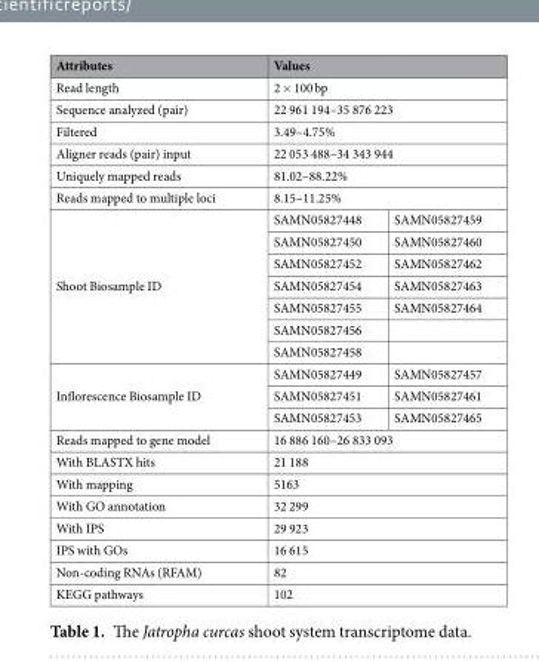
<table><thead><tr><td>Attributes</td><td colspan="2">Values</td></tr></thead><tbody><tr><td>Read length</td><td colspan="2">2 × 100 bp</td></tr><tr><td>Sequence analyzed (pair)</td><td colspan="2">22 961 194–35 876 223</td></tr><tr><td>Filtered</td><td colspan="2">3.49–4.75%</td></tr><tr><td>Aligner reads (pair) input</td><td colspan="2">22 053 488–34 343 944</td></tr><tr><td>Uniquely mapped reads</td><td colspan="2">81.02–88.22%</td></tr><tr><td>Reads mapped to multiple loci</td><td colspan="2">8.15–11.25%</td></tr><tr><td rowspan="7">Shoot Biosample ID</td><td>SAMN05827448</td><td>SAMN05827459</td></tr><tr><td>SAMN05827450</td><td>SAMN05827460</td></tr><tr><td>SAMN05827452</td><td>SAMN05827462</td></tr><tr><td>SAMN05827454</td><td>SAMN05827463</td></tr><tr><td>SAMN05827455</td><td>SAMN05827464</td></tr><tr><td>SAMN05827456</td><td></td></tr><tr><td>SAMN05827458</td><td></td></tr><tr><td rowspan="3">Inflorescence Biosample ID</td><td>SAMN05827449</td><td>SAMN05827457</td></tr><tr><td>SAMN05827451</td><td>SAMN05827461</td></tr><tr><td>SAMN05827453</td><td>SAMN05827465</td></tr><tr><td>Reads mapped to gene model</td><td colspan="2">16 886 160–26 833 093</td></tr><tr><td>With BLASTX hits</td><td colspan="2">21 188</td></tr><tr><td>With mapping</td><td colspan="2">5163</td></tr><tr><td>With GO annotation</td><td colspan="2">32 299</td></tr><tr><td>With IPS</td><td colspan="2">29 923</td></tr><tr><td>IPS with GOs</td><td colspan="2">16 615</td></tr><tr><td>Non-coding RNAs (RFAM)</td><td colspan="2">82</td></tr><tr><td>KEGG pathways</td><td colspan="2">102</td></tr></tbody></table>